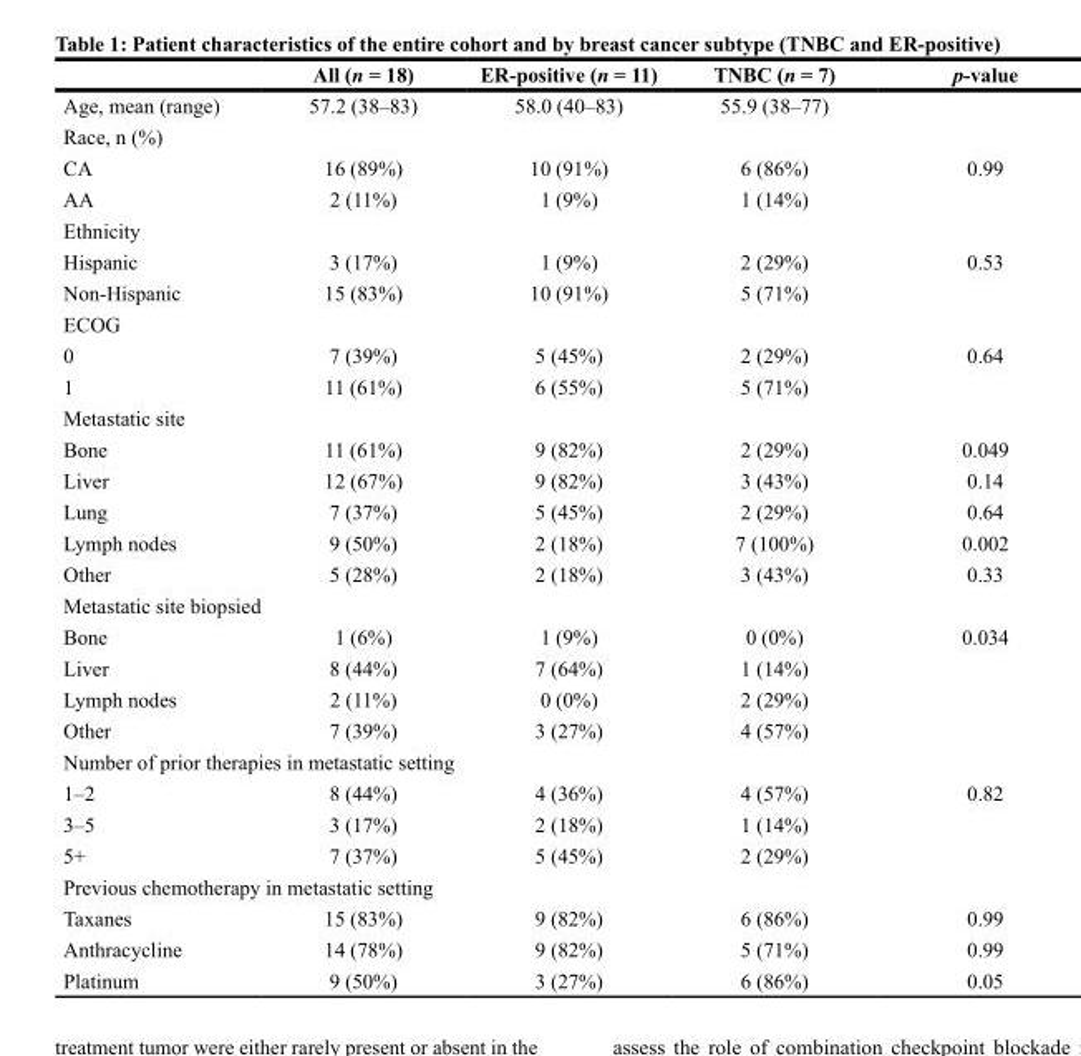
<table><thead><tr><td></td><td>All (n = 18)</td><td>ER-positive (n = 11)</td><td>TNBC (n = 7)</td><td>p-value</td></tr></thead><tbody><tr><td>Age, mean (range)</td><td>57.2 (38–83)</td><td>58.0 (40–83)</td><td>55.9 (38–77)</td><td></td></tr><tr><td colspan="5">Race, n (%)</td></tr><tr><td>CA</td><td>16 (89%)</td><td>10 (91%)</td><td>6 (86%)</td><td rowspan="2">0.99</td></tr><tr><td>AA</td><td>2 (11%)</td><td>1 (9%)</td><td>1 (14%)</td></tr><tr><td colspan="5">Ethnicity</td></tr><tr><td>Hispanic</td><td>3 (17%)</td><td>1 (9%)</td><td>2 (29%)</td><td rowspan="2">0.53</td></tr><tr><td>Non-Hispanic</td><td>15 (83%)</td><td>10 (91%)</td><td>5 (71%)</td></tr><tr><td colspan="5">ECOG</td></tr><tr><td>0</td><td>7 (39%)</td><td>5 (45%)</td><td>2 (29%)</td><td rowspan="2">0.64</td></tr><tr><td>1</td><td>11 (61%)</td><td>6 (55%)</td><td>5 (71%)</td></tr><tr><td colspan="5">Metastatic site</td></tr><tr><td>Bone</td><td>11 (61%)</td><td>9 (82%)</td><td>2 (29%)</td><td>0.049</td></tr><tr><td>Liver</td><td>12 (67%)</td><td>9 (82%)</td><td>3 (43%)</td><td>0.14</td></tr><tr><td>Lung</td><td>7 (37%)</td><td>5 (45%)</td><td>2 (29%)</td><td>0.64</td></tr><tr><td>Lymph nodes</td><td>9 (50%)</td><td>2 (18%)</td><td>7 (100%)</td><td>0.002</td></tr><tr><td>Other</td><td>5 (28%)</td><td>2 (18%)</td><td>3 (43%)</td><td>0.33</td></tr><tr><td colspan="5">Metastatic site biopsied</td></tr><tr><td>Bone</td><td>1 (6%)</td><td>1 (9%)</td><td>0 (0%)</td><td rowspan="4">0.034</td></tr><tr><td>Liver</td><td>8 (44%)</td><td>7 (64%)</td><td>1 (14%)</td></tr><tr><td>Lymph nodes</td><td>2 (11%)</td><td>0 (0%)</td><td>2 (29%)</td></tr><tr><td>Other</td><td>7 (39%)</td><td>3 (27%)</td><td>4 (57%)</td></tr><tr><td colspan="5">Number of prior therapies in metastatic setting</td></tr><tr><td>1–2</td><td>8 (44%)</td><td>4 (36%)</td><td>4 (57%)</td><td rowspan="3">0.82</td></tr><tr><td>3–5</td><td>3 (17%)</td><td>2 (18%)</td><td>1 (14%)</td></tr><tr><td>5+</td><td>7 (37%)</td><td>5 (45%)</td><td>2 (29%)</td></tr><tr><td colspan="5">Previous chemotherapy in metastatic setting</td></tr><tr><td>Taxanes</td><td>15 (83%)</td><td>9 (82%)</td><td>6 (86%)</td><td>0.99</td></tr><tr><td>Anthracycline</td><td>14 (78%)</td><td>9 (82%)</td><td>5 (71%)</td><td>0.99</td></tr><tr><td>Platinum</td><td>9 (50%)</td><td>3 (27%)</td><td>6 (86%)</td><td>0.05</td></tr></tbody></table>